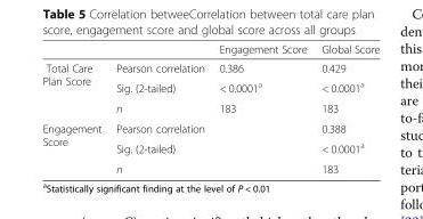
<table><thead><tr><td></td><td></td><td>Engagement Score</td><td>Global Score</td></tr></thead><tbody><tr><td rowspan="3">Total Care Plan Score</td><td>Pearson correlation</td><td>0.386</td><td>0.429</td></tr><tr><td>Sig. (2-tailed)</td><td>&lt; 0.0001<sup>a</sup></td><td>&lt; 0.0001<sup>a</sup></td></tr><tr><td>n</td><td>183</td><td>183</td></tr><tr><td rowspan="3">Engagement Score</td><td>Pearson correlation</td><td></td><td>0.388</td></tr><tr><td>Sig. (2-tailed)</td><td></td><td>&lt; 0.0001<sup>a</sup></td></tr><tr><td>n</td><td></td><td>183</td></tr></tbody></table>